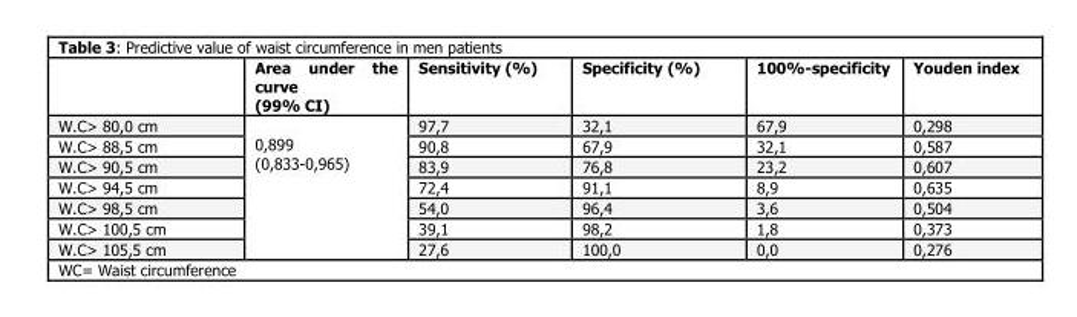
<table><thead><tr><td></td><td>Area under the curve (99% CI)</td><td>Sensitivity (%)</td><td>Specificity (%)</td><td>100%-specificity</td><td>Youden index</td></tr></thead><tbody><tr><td>W.C&gt; 80,0 cm</td><td rowspan="7">0,899 (0,833-0,965)</td><td>97,7</td><td>32,1</td><td>67,9</td><td>0,298</td></tr><tr><td>W.C&gt; 88,5 cm</td><td>90,8</td><td>67,9</td><td>32,1</td><td>0,587</td></tr><tr><td>W.C&gt; 90,5 cm</td><td>83,9</td><td>76,8</td><td>23,2</td><td>0,607</td></tr><tr><td>W.C&gt; 94,5 cm</td><td>72,4</td><td>91,1</td><td>8,9</td><td>0,635</td></tr><tr><td>W.C&gt; 98,5 cm</td><td>54,0</td><td>96,4</td><td>3,6</td><td>0,504</td></tr><tr><td>W.C&gt; 100,5 cm</td><td>39,1</td><td>98,2</td><td>1,8</td><td>0,373</td></tr><tr><td>W.C&gt; 105,5 cm</td><td>27,6</td><td>100,0</td><td>0,0</td><td>0,276</td></tr></tbody></table>